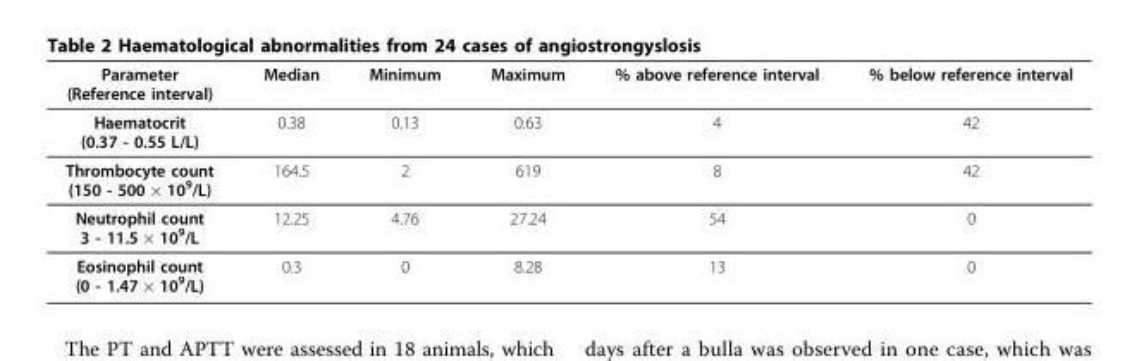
<table><thead><tr><td>Parameter (Reference interval)</td><td>Median</td><td>Minimum</td><td>Maximum</td><td>% above reference interval</td><td>% below reference interval</td></tr></thead><tbody><tr><td>Haematocrit (0.37 - 0.55 L/L)</td><td>0.38</td><td>0.13</td><td>0.63</td><td>4</td><td>42</td></tr><tr><td>Thrombocyte count (150 - 500 × 10<sup>9</sup>/L)</td><td>164.5</td><td>2</td><td>619</td><td>8</td><td>42</td></tr><tr><td>Neutrophil count 3 - 11.5 × 10<sup>9</sup>/L</td><td>12.25</td><td>4.76</td><td>27.24</td><td>54</td><td>0</td></tr><tr><td>Eosinophil count (0 - 1.47 × 10<sup>9</sup>/L)</td><td>0.3</td><td>0</td><td>8.28</td><td>13</td><td>0</td></tr></tbody></table>